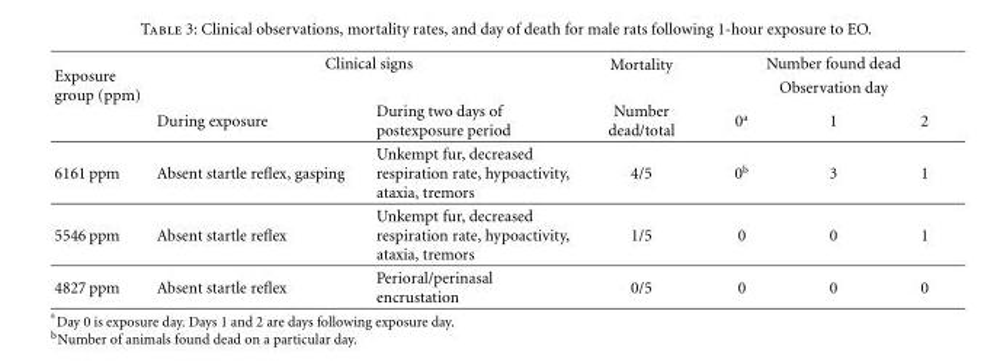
<table><thead><tr><td rowspan="2">Exposure group (ppm)</td><td colspan="2">Clinical signs</td><td rowspan="2">Mortality Number dead/total</td><td colspan="3">Number found dead Observation day</td></tr><tr><td>During exposure</td><td>During two days of postexposure period</td><td>0<sup>a</sup></td><td>1</td><td>2</td></tr></thead><tbody><tr><td>6161 ppm</td><td>Absent startle reflex, gasping</td><td>Unkempt fur, decreased respiration rate, hypoactivity, ataxia, tremors</td><td>4/5</td><td>0<sup>b</sup></td><td>3</td><td>1</td></tr><tr><td>5546 ppm</td><td>Absent startle reflex</td><td>Unkempt fur, decreased respiration rate, hypoactivity, ataxia, tremors</td><td>1/5</td><td>0</td><td>0</td><td>1</td></tr><tr><td>4827 ppm</td><td>Absent startle reflex</td><td>Perioral/perinasal encrustation</td><td>0/5</td><td>0</td><td>0</td><td>0</td></tr></tbody></table>